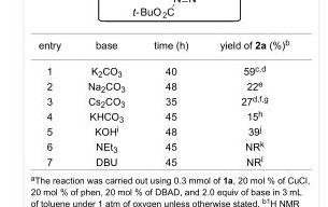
<table><tbody><tr><td>entry</td><td>base</td><td>time (h)</td><td>yield of 2a (%)<sup>b</sup></td></tr><tr><td>1</td><td>K<sub>2</sub>CO<sub>3</sub></td><td>40</td><td>59<sup>c,d</sup></td></tr><tr><td>2</td><td>Na<sub>2</sub>CO<sub>3</sub></td><td>48</td><td>22<sup>e</sup></td></tr><tr><td>3</td><td>Cs<sub>2</sub>CO<sub>3</sub></td><td>35</td><td>27<sup>d,f,g</sup></td></tr><tr><td>4</td><td>KHCO<sub>3</sub></td><td>45</td><td>15<sup>h</sup></td></tr><tr><td>5</td><td>KOH<sup>i</sup></td><td>48</td><td>39<sup>j</sup></td></tr><tr><td>6</td><td>NEt<sub>3</sub></td><td>45</td><td>NR<sup>k</sup></td></tr><tr><td>7</td><td>DBU</td><td>45</td><td>NR<sup>l</sup></td></tr></tbody></table>